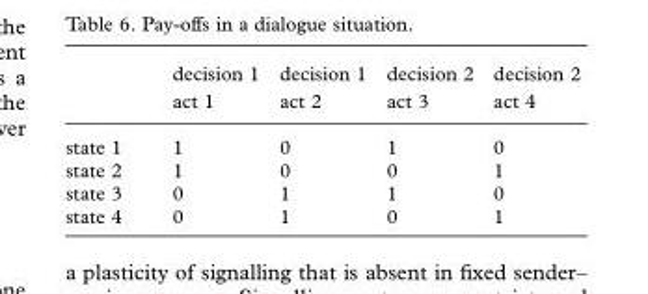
<table><thead><tr><td rowspan="2"></td><td rowspan="2">decision 1 act 1</td><td rowspan="2">decision 1 act 2</td><td rowspan="2">decision 2 act 3</td><td rowspan="2">decision 2 act 4</td></tr><tr></tr></thead><tbody><tr><td>state 1</td><td>1</td><td>0</td><td>1</td><td>0</td></tr><tr><td>state 2</td><td>1</td><td>0</td><td>0</td><td>1</td></tr><tr><td>state 3</td><td>0</td><td>1</td><td>1</td><td>0</td></tr><tr><td>state 4</td><td>0</td><td>1</td><td>0</td><td>1</td></tr></tbody></table>